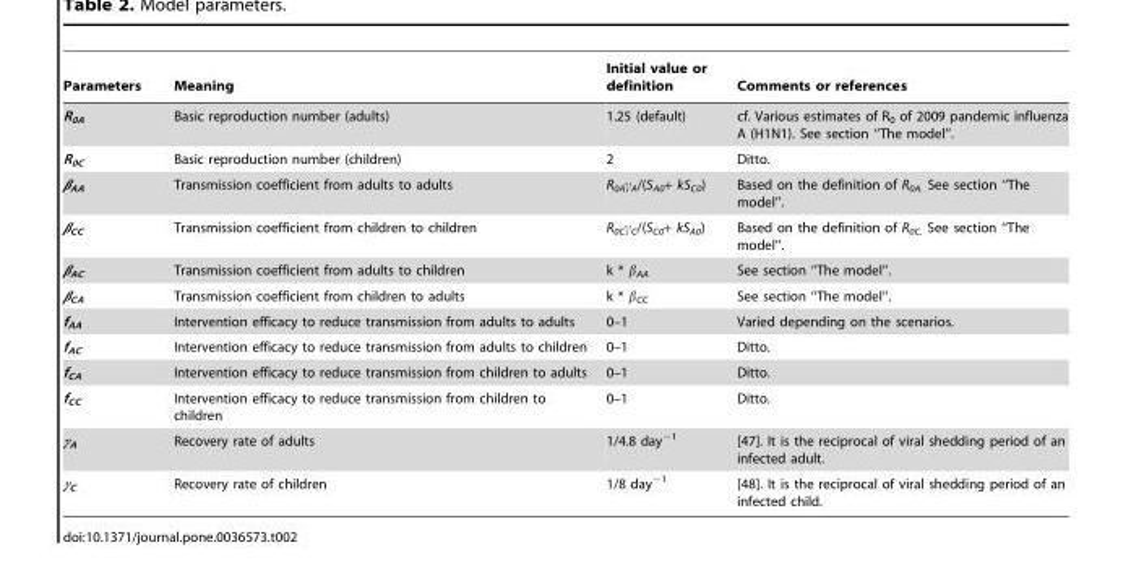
<table><thead><tr><td>Parameters</td><td>Meaning</td><td>Initial value or definition</td><td>Comments or references</td></tr></thead><tbody><tr><td>R<sub>0A</sub></td><td>Basic reproduction number (adults)</td><td>1.25 (default)</td><td>cf. Various estimates of R0 of 2009 pandemic influenza A (H1N1). See section ‘‘The model’’.</td></tr><tr><td>R<sub>0C</sub></td><td>Basic reproduction number (children)</td><td>2</td><td>Ditto.</td></tr><tr><td>β<sub>AA</sub></td><td>Transmission coefficient from adults to adults</td><td>R<sub>0A</sub>γ<sub>A</sub>/(S<sub>A0</sub>+ kS<sub>C0</sub>)</td><td>Based on the definition of R0A. See section ‘‘The model’’.</td></tr><tr><td>β<sub>CC</sub></td><td>Transmission coefficient from children to children</td><td>R<sub>0C</sub>γ<sub>C</sub>/(S<sub>C0</sub>+ kS<sub>A0</sub>)</td><td>Based on the definition of R0C. See section ‘‘The model’’.</td></tr><tr><td>β<sub>AC</sub></td><td>Transmission coefficient from adults to children</td><td>k * β<sub>AA</sub></td><td>See section ‘‘The model’’.</td></tr><tr><td>β<sub>CA</sub></td><td>Transmission coefficient from children to adults</td><td>k * β<sub>CC</sub></td><td>See section ‘‘The model’’.</td></tr><tr><td>f<sub>AA</sub></td><td>Intervention efficacy to reduce transmission from adults to adults</td><td>0–1</td><td>Varied depending on the scenarios.</td></tr><tr><td>f<sub>AC</sub></td><td>Intervention efficacy to reduce transmission from adults to children</td><td>0–1</td><td>Ditto.</td></tr><tr><td>f<sub>CA</sub></td><td>Intervention efficacy to reduce transmission from children to adults</td><td>0–1</td><td>Ditto.</td></tr><tr><td>f<sub>CC</sub></td><td>Intervention efficacy to reduce transmission from children to children</td><td>0–1</td><td>Ditto.</td></tr><tr><td>γ<sub>A</sub></td><td>Recovery rate of adults</td><td>1/4.8 day<sup>−1</sup></td><td>[47]. It is the reciprocal of viral shedding period of an infected adult.</td></tr><tr><td>γ<sub>C</sub></td><td>Recovery rate of children</td><td>1/8 day<sup>−1</sup></td><td>[48]. It is the reciprocal of viral shedding period of an infected child.</td></tr></tbody></table>